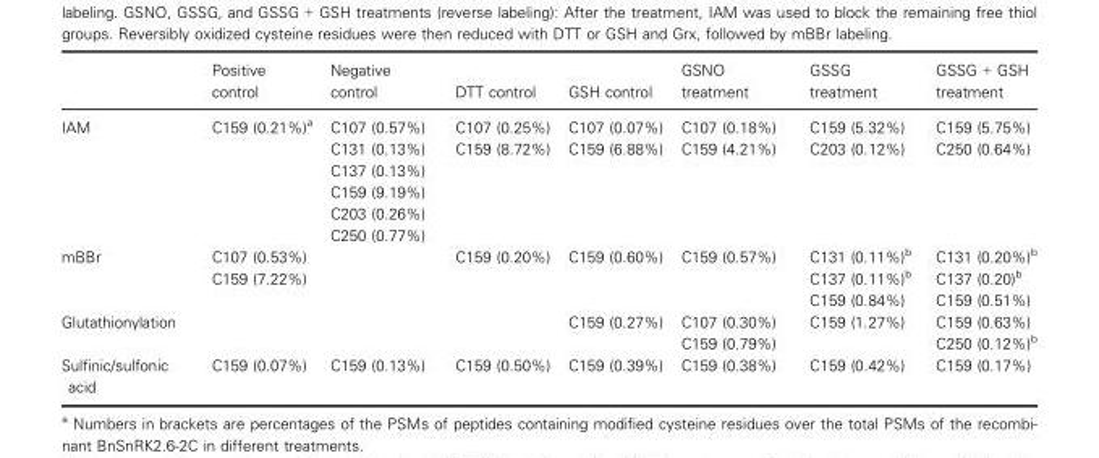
<table><thead><tr><td></td><td>Positive control</td><td>Negative control</td><td>DTT control</td><td>GSH control</td><td>GSNO treatment</td><td>GSSG treatment</td><td>GSSG + GSH treatment</td></tr></thead><tbody><tr><td>IAM</td><td>C159 (0.21%)<sup>a</sup></td><td>C107 (0.57%) C131 (0.13%) C137 (0.13%) C159 (9.19%) C203 (0.26%) C250 (0.77%)</td><td>C107 (0.25%) C159 (8.72%)</td><td>C107 (0.07%) C159 (6.88%)</td><td>C107 (0.18%) C159 (4.21%)</td><td>C159 (5.32%) C203 (0.12%)</td><td>C159 (5.75%) C250 (0.64%)</td></tr><tr><td>mBBr</td><td>C107 (0.53%) C159 (7.22%)</td><td></td><td>C159 (0.20%)</td><td>C159 (0.60%)</td><td>C159 (0.57%)</td><td>C131 (0.11%)<sup>b</sup> C137 (0.11%)<sup>b</sup> C159 (0.84%)</td><td>C131 (0.20%)<sup>b</sup> C137 (0.20)<sup>b</sup> C159 (0.51%)</td></tr><tr><td>Glutathionylation</td><td></td><td></td><td></td><td>C159 (0.27%)</td><td>C107 (0.30%) C159 (0.79%)</td><td>C159 (1.27%)</td><td>C159 (0.63%) C250 (0.12%)<sup>b</sup></td></tr><tr><td>Sulfinic/sulfonic acid</td><td>C159 (0.07%)</td><td>C159 (0.13%)</td><td>C159 (0.50%)</td><td>C159 (0.39%)</td><td>C159 (0.38%)</td><td>C159 (0.42%)</td><td>C159 (0.17%)</td></tr></tbody></table>